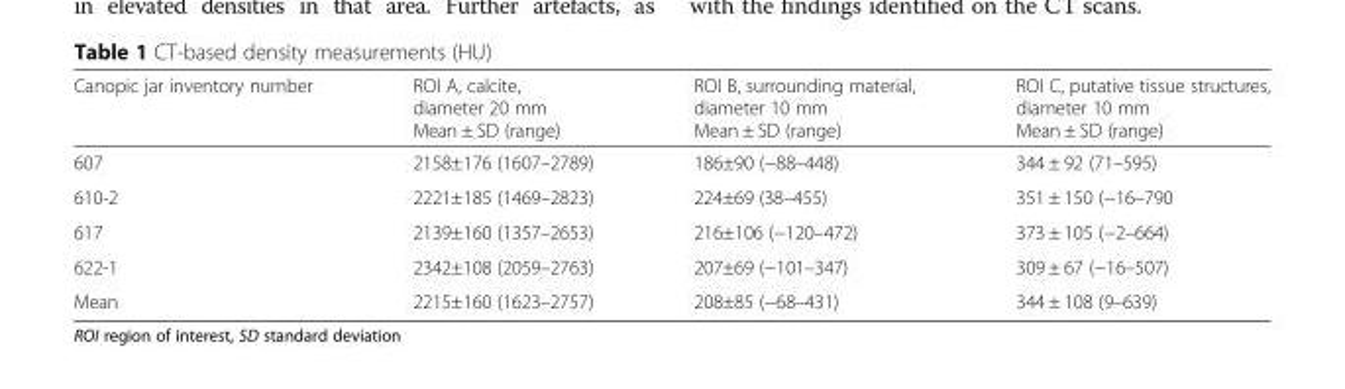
<table><thead><tr><td>Canopic jar inventory number</td><td>ROI A, calcite, diameter 20 mm Mean ± SD (range)</td><td>ROI B, surrounding material, diameter 10 mm Mean ± SD (range)</td><td>ROI C, putative tissue structures, diameter 10 mm Mean ± SD (range)</td></tr></thead><tbody><tr><td>607</td><td>2158±176 (1607–2789)</td><td>186±90 (−88–448)</td><td>344 ± 92 (71–595)</td></tr><tr><td>610-2</td><td>2221±185 (1469–2823)</td><td>224±69 (38–455)</td><td>351 ± 150 (−16–790</td></tr><tr><td>617</td><td>2139±160 (1357–2653)</td><td>216±106 (−120–472)</td><td>373 ± 105 (−2–664)</td></tr><tr><td>622-1</td><td>2342±108 (2059–2763)</td><td>207±69 (−101–347)</td><td>309 ± 67 (−16–507)</td></tr><tr><td>Mean</td><td>2215±160 (1623–2757)</td><td>208±85 (−68–431)</td><td>344 ± 108 (9–639)</td></tr></tbody></table>